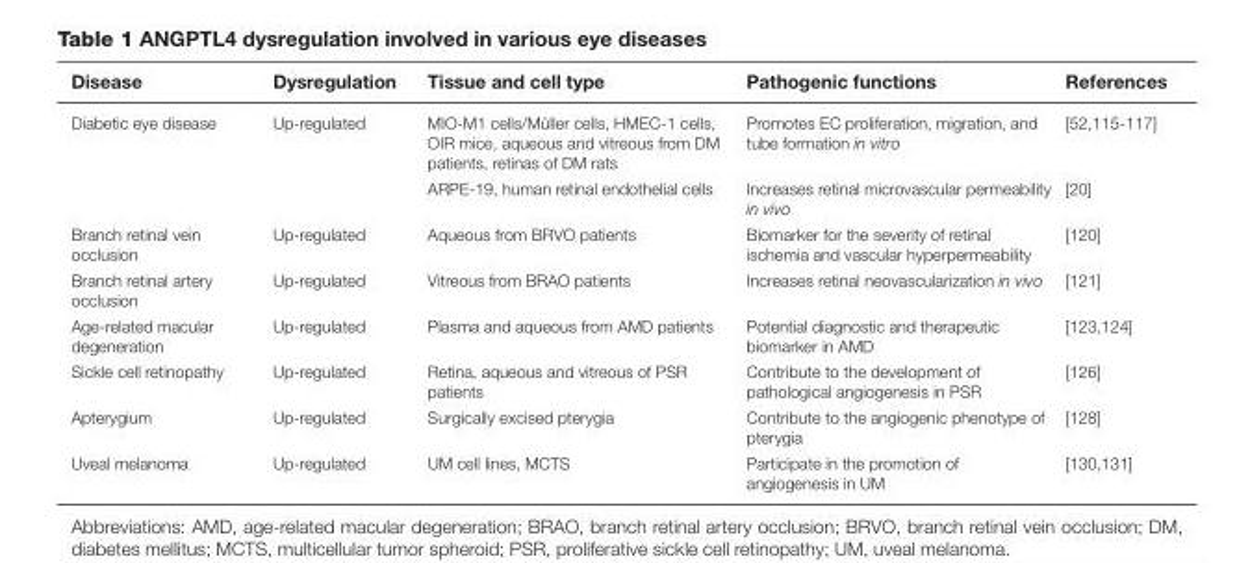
<table><thead><tr><td>Disease</td><td>Dysregulation</td><td>Tissue and cell type</td><td>Pathogenic functions</td><td>References</td></tr></thead><tbody><tr><td rowspan="2">Diabetic eye disease</td><td>Up-regulated</td><td>MIO-M1 cells/M ¨uller cells, HMEC-1 cells, OIR mice, aqueous and vitreous from DM patients, retinas of DM rats</td><td>Promotes EC proliferation, migration, and tube formation in vitro</td><td>[52,115-117]</td></tr><tr><td></td><td>ARPE-19, human retinal endothelial cells</td><td>Increases retinal microvascular permeability in vivo</td><td>[20]</td></tr><tr><td>Branch retinal vein occlusion</td><td>Up-regulated</td><td>Aqueous from BRVO patients</td><td>Biomarker for the severity of retinal ischemia and vascular hyperpermeability</td><td>[120]</td></tr><tr><td>Branch retinal artery occlusion</td><td>Up-regulated</td><td>Vitreous from BRAO patients</td><td>Increases retinal neovascularization in vivo</td><td>[121]</td></tr><tr><td>Age-related macular degeneration</td><td>Up-regulated</td><td>Plasma and aqueous from AMD patients</td><td>Potential diagnostic and therapeutic biomarker in AMD</td><td>[123,124]</td></tr><tr><td>Sickle cell retinopathy</td><td>Up-regulated</td><td>Retina, aqueous and vitreous of PSR patients</td><td>Contribute to the development of pathological angiogenesis in PSR</td><td>[126]</td></tr><tr><td>Apterygium</td><td>Up-regulated</td><td>Surgically excised pterygia</td><td>Contribute to the angiogenic phenotype of pterygia</td><td>[128]</td></tr><tr><td>Uveal melanoma</td><td>Up-regulated</td><td>UM cell lines, MCTS</td><td>Participate in the promotion of angiogenesis in UM</td><td>[130,131]</td></tr></tbody></table>